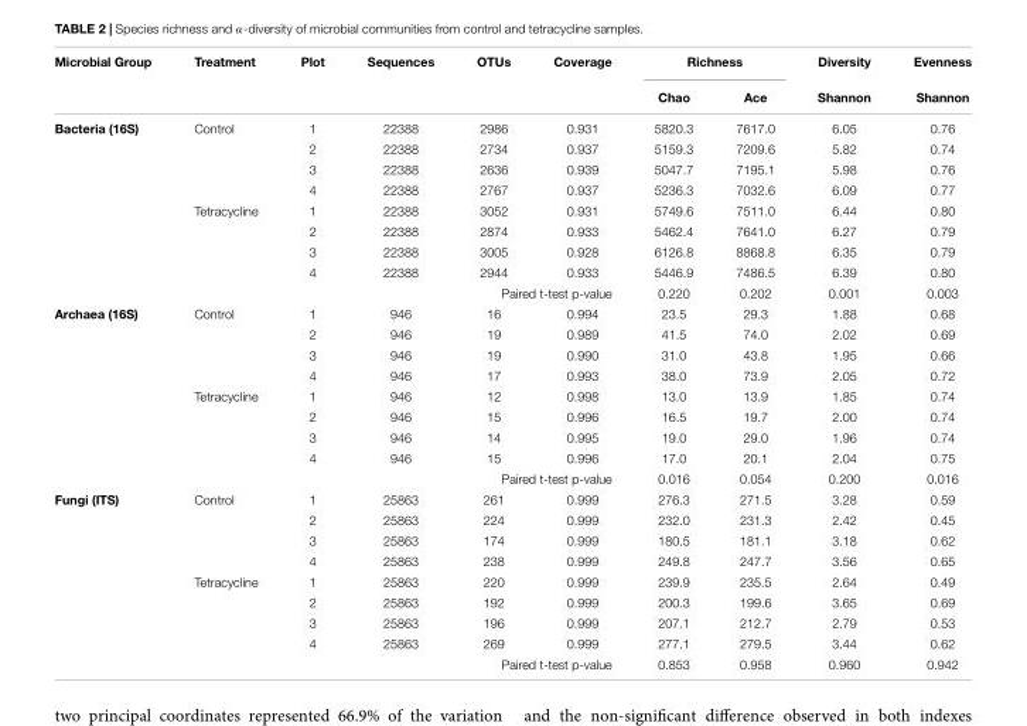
<table><thead><tr><td rowspan="2">Microbial Group</td><td rowspan="2">Treatment</td><td rowspan="2">Plot</td><td rowspan="2">Sequences</td><td rowspan="2">OTUs</td><td rowspan="2">Coverage</td><td colspan="2">Richness</td><td rowspan="2">Diversity Shannon</td><td rowspan="2">Evenness Shannon</td></tr><tr><td>Chao</td><td>Ace</td></tr></thead><tbody><tr><td rowspan="8">Bacteria (16S)</td><td>Control</td><td>1</td><td>22388</td><td>2986</td><td>0.931</td><td>5820.3</td><td>7617.0</td><td>6.05</td><td>0.76</td></tr><tr><td></td><td>2</td><td>22388</td><td>2734</td><td>0.937</td><td>5159.3</td><td>7209.6</td><td>5.82</td><td>0.74</td></tr><tr><td></td><td>3</td><td>22388</td><td>2636</td><td>0.939</td><td>5047.7</td><td>7195.1</td><td>5.98</td><td>0.76</td></tr><tr><td></td><td>4</td><td>22388</td><td>2767</td><td>0.937</td><td>5236.3</td><td>7032.6</td><td>6.09</td><td>0.77</td></tr><tr><td>Tetracycline</td><td>1</td><td>22388</td><td>3052</td><td>0.931</td><td>5749.6</td><td>7511.0</td><td>6.44</td><td>0.80</td></tr><tr><td></td><td>2</td><td>22388</td><td>2874</td><td>0.933</td><td>5462.4</td><td>7641.0</td><td>6.27</td><td>0.79</td></tr><tr><td></td><td>3</td><td>22388</td><td>3005</td><td>0.928</td><td>6126.8</td><td>8868.8</td><td>6.35</td><td>0.79</td></tr><tr><td></td><td>4</td><td>22388</td><td>2944</td><td>0.933</td><td>5446.9</td><td>7486.5</td><td>6.39</td><td>0.80</td></tr><tr><td colspan="6">Paired t-test p-value</td><td>0.220</td><td>0.202</td><td>0.001</td><td>0.003</td></tr><tr><td rowspan="8">Archaea (16S)</td><td>Control</td><td>1</td><td>946</td><td>16</td><td>0.994</td><td>23.5</td><td>29.3</td><td>1.88</td><td>0.68</td></tr><tr><td></td><td>2</td><td>946</td><td>19</td><td>0.989</td><td>41.5</td><td>74.0</td><td>2.02</td><td>0.69</td></tr><tr><td></td><td>3</td><td>946</td><td>19</td><td>0.990</td><td>31.0</td><td>43.8</td><td>1.95</td><td>0.66</td></tr><tr><td></td><td>4</td><td>946</td><td>17</td><td>0.993</td><td>38.0</td><td>73.9</td><td>2.05</td><td>0.72</td></tr><tr><td>Tetracycline</td><td>1</td><td>946</td><td>12</td><td>0.998</td><td>13.0</td><td>13.9</td><td>1.85</td><td>0.74</td></tr><tr><td></td><td>2</td><td>946</td><td>15</td><td>0.996</td><td>16.5</td><td>19.7</td><td>2.00</td><td>0.74</td></tr><tr><td></td><td>3</td><td>946</td><td>14</td><td>0.995</td><td>19.0</td><td>29.0</td><td>1.96</td><td>0.74</td></tr><tr><td></td><td>4</td><td>946</td><td>15</td><td>0.996</td><td>17.0</td><td>20.1</td><td>2.04</td><td>0.75</td></tr><tr><td colspan="6">Paired t-test p-value</td><td>0.016</td><td>0.054</td><td>0.200</td><td>0.016</td></tr><tr><td rowspan="8">Fungi (ITS)</td><td>Control</td><td>1</td><td>25863</td><td>261</td><td>0.999</td><td>276.3</td><td>271.5</td><td>3.28</td><td>0.59</td></tr><tr><td></td><td>2</td><td>25863</td><td>224</td><td>0.999</td><td>232.0</td><td>231.3</td><td>2.42</td><td>0.45</td></tr><tr><td></td><td>3</td><td>25863</td><td>174</td><td>0.999</td><td>180.5</td><td>181.1</td><td>3.18</td><td>0.62</td></tr><tr><td></td><td>4</td><td>25863</td><td>238</td><td>0.999</td><td>249.8</td><td>247.7</td><td>3.56</td><td>0.65</td></tr><tr><td>Tetracycline</td><td>1</td><td>25863</td><td>220</td><td>0.999</td><td>239.9</td><td>235.5</td><td>2.64</td><td>0.49</td></tr><tr><td></td><td>2</td><td>25863</td><td>192</td><td>0.999</td><td>200.3</td><td>199.6</td><td>3.65</td><td>0.69</td></tr><tr><td></td><td>3</td><td>25863</td><td>196</td><td>0.999</td><td>207.1</td><td>212.7</td><td>2.79</td><td>0.53</td></tr><tr><td></td><td>4</td><td>25863</td><td>269</td><td>0.999</td><td>277.1</td><td>279.5</td><td>3.44</td><td>0.62</td></tr><tr><td colspan="6">Paired t-test p-value</td><td>0.853</td><td>0.958</td><td>0.960</td><td>0.942</td></tr></tbody></table>